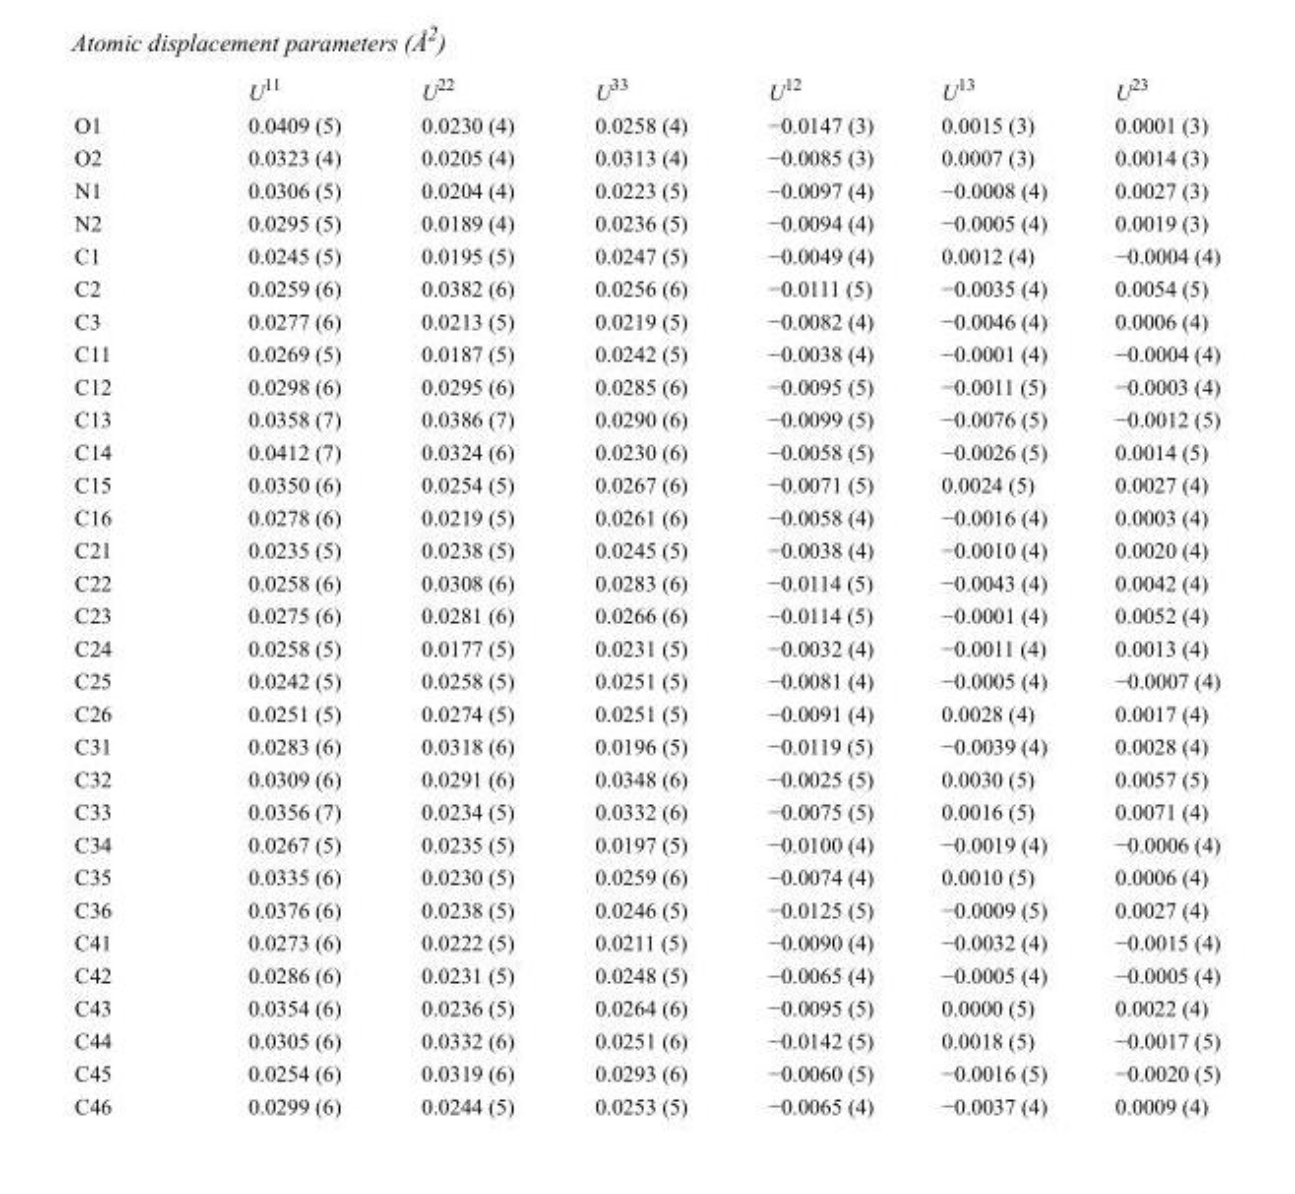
<table><thead><tr><td></td><td>U<sup>11</sup></td><td>U<sup>22</sup></td><td>U<sup>33</sup></td><td>U<sup>12</sup></td><td>U<sup>13</sup></td><td>U<sup>23</sup></td></tr></thead><tbody><tr><td>O1</td><td>0.0409 (5)</td><td>0.0230 (4)</td><td>0.0258 (4)</td><td>−0.0147 (3)</td><td>0.0015 (3)</td><td>0.0001 (3)</td></tr><tr><td>O2</td><td>0.0323 (4)</td><td>0.0205 (4)</td><td>0.0313 (4)</td><td>−0.0085 (3)</td><td>0.0007 (3)</td><td>0.0014 (3)</td></tr><tr><td>N1</td><td>0.0306 (5)</td><td>0.0204 (4)</td><td>0.0223 (5)</td><td>−0.0097 (4)</td><td>−0.0008 (4)</td><td>0.0027 (3)</td></tr><tr><td>N2</td><td>0.0295 (5)</td><td>0.0189 (4)</td><td>0.0236 (5)</td><td>−0.0094 (4)</td><td>−0.0005 (4)</td><td>0.0019 (3)</td></tr><tr><td>C1</td><td>0.0245 (5)</td><td>0.0195 (5)</td><td>0.0247 (5)</td><td>−0.0049 (4)</td><td>0.0012 (4)</td><td>−0.0004 (4)</td></tr><tr><td>C2</td><td>0.0259 (6)</td><td>0.0382 (6)</td><td>0.0256 (6)</td><td>−0.0111 (5)</td><td>−0.0035 (4)</td><td>0.0054 (5)</td></tr><tr><td>C3</td><td>0.0277 (6)</td><td>0.0213 (5)</td><td>0.0219 (5)</td><td>−0.0082 (4)</td><td>−0.0046 (4)</td><td>0.0006 (4)</td></tr><tr><td>C11</td><td>0.0269 (5)</td><td>0.0187 (5)</td><td>0.0242 (5)</td><td>−0.0038 (4)</td><td>−0.0001 (4)</td><td>−0.0004 (4)</td></tr><tr><td>C12</td><td>0.0298 (6)</td><td>0.0295 (6)</td><td>0.0285 (6)</td><td>−0.0095 (5)</td><td>−0.0011 (5)</td><td>−0.0003 (4)</td></tr><tr><td>C13</td><td>0.0358 (7)</td><td>0.0386 (7)</td><td>0.0290 (6)</td><td>−0.0099 (5)</td><td>−0.0076 (5)</td><td>−0.0012 (5)</td></tr><tr><td>C14</td><td>0.0412 (7)</td><td>0.0324 (6)</td><td>0.0230 (6)</td><td>−0.0058 (5)</td><td>−0.0026 (5)</td><td>0.0014 (5)</td></tr><tr><td>C15</td><td>0.0350 (6)</td><td>0.0254 (5)</td><td>0.0267 (6)</td><td>−0.0071 (5)</td><td>0.0024 (5)</td><td>0.0027 (4)</td></tr><tr><td>C16</td><td>0.0278 (6)</td><td>0.0219 (5)</td><td>0.0261 (6)</td><td>−0.0058 (4)</td><td>−0.0016 (4)</td><td>0.0003 (4)</td></tr><tr><td>C21</td><td>0.0235 (5)</td><td>0.0238 (5)</td><td>0.0245 (5)</td><td>−0.0038 (4)</td><td>−0.0010 (4)</td><td>0.0020 (4)</td></tr><tr><td>C22</td><td>0.0258 (6)</td><td>0.0308 (6)</td><td>0.0283 (6)</td><td>−0.0114 (5)</td><td>−0.0043 (4)</td><td>0.0042 (4)</td></tr><tr><td>C23</td><td>0.0275 (6)</td><td>0.0281 (6)</td><td>0.0266 (6)</td><td>−0.0114 (5)</td><td>−0.0001 (4)</td><td>0.0052 (4)</td></tr><tr><td>C24</td><td>0.0258 (5)</td><td>0.0177 (5)</td><td>0.0231 (5)</td><td>−0.0032 (4)</td><td>−0.0011 (4)</td><td>0.0013 (4)</td></tr><tr><td>C25</td><td>0.0242 (5)</td><td>0.0258 (5)</td><td>0.0251 (5)</td><td>−0.0081 (4)</td><td>−0.0005 (4)</td><td>−0.0007 (4)</td></tr><tr><td>C26</td><td>0.0251 (5)</td><td>0.0274 (5)</td><td>0.0251 (5)</td><td>−0.0091 (4)</td><td>0.0028 (4)</td><td>0.0017 (4)</td></tr><tr><td>C31</td><td>0.0283 (6)</td><td>0.0318 (6)</td><td>0.0196 (5)</td><td>−0.0119 (5)</td><td>−0.0039 (4)</td><td>0.0028 (4)</td></tr><tr><td>C32</td><td>0.0309 (6)</td><td>0.0291 (6)</td><td>0.0348 (6)</td><td>−0.0025 (5)</td><td>0.0030 (5)</td><td>0.0057 (5)</td></tr><tr><td>C33</td><td>0.0356 (7)</td><td>0.0234 (5)</td><td>0.0332 (6)</td><td>−0.0075 (5)</td><td>0.0016 (5)</td><td>0.0071 (4)</td></tr><tr><td>C34</td><td>0.0267 (5)</td><td>0.0235 (5)</td><td>0.0197 (5)</td><td>−0.0100 (4)</td><td>−0.0019 (4)</td><td>−0.0006 (4)</td></tr><tr><td>C35</td><td>0.0335 (6)</td><td>0.0230 (5)</td><td>0.0259 (6)</td><td>−0.0074 (4)</td><td>0.0010 (5)</td><td>0.0006 (4)</td></tr><tr><td>C36</td><td>0.0376 (6)</td><td>0.0238 (5)</td><td>0.0246 (5)</td><td>−0.0125 (5)</td><td>−0.0009 (5)</td><td>0.0027 (4)</td></tr><tr><td>C41</td><td>0.0273 (6)</td><td>0.0222 (5)</td><td>0.0211 (5)</td><td>−0.0090 (4)</td><td>−0.0032 (4)</td><td>−0.0015 (4)</td></tr><tr><td>C42</td><td>0.0286 (6)</td><td>0.0231 (5)</td><td>0.0248 (5)</td><td>−0.0065 (4)</td><td>−0.0005 (4)</td><td>−0.0005 (4)</td></tr><tr><td>C43</td><td>0.0354 (6)</td><td>0.0236 (5)</td><td>0.0264 (6)</td><td>−0.0095 (5)</td><td>0.0000 (5)</td><td>0.0022 (4)</td></tr><tr><td>C44</td><td>0.0305 (6)</td><td>0.0332 (6)</td><td>0.0251 (6)</td><td>−0.0142 (5)</td><td>0.0018 (5)</td><td>−0.0017 (5)</td></tr><tr><td>C45</td><td>0.0254 (6)</td><td>0.0319 (6)</td><td>0.0293 (6)</td><td>−0.0060 (5)</td><td>−0.0016 (5)</td><td>−0.0020 (5)</td></tr><tr><td>C46</td><td>0.0299 (6)</td><td>0.0244 (5)</td><td>0.0253 (5)</td><td>−0.0065 (4)</td><td>−0.0037 (4)</td><td>0.0009 (4)</td></tr></tbody></table>